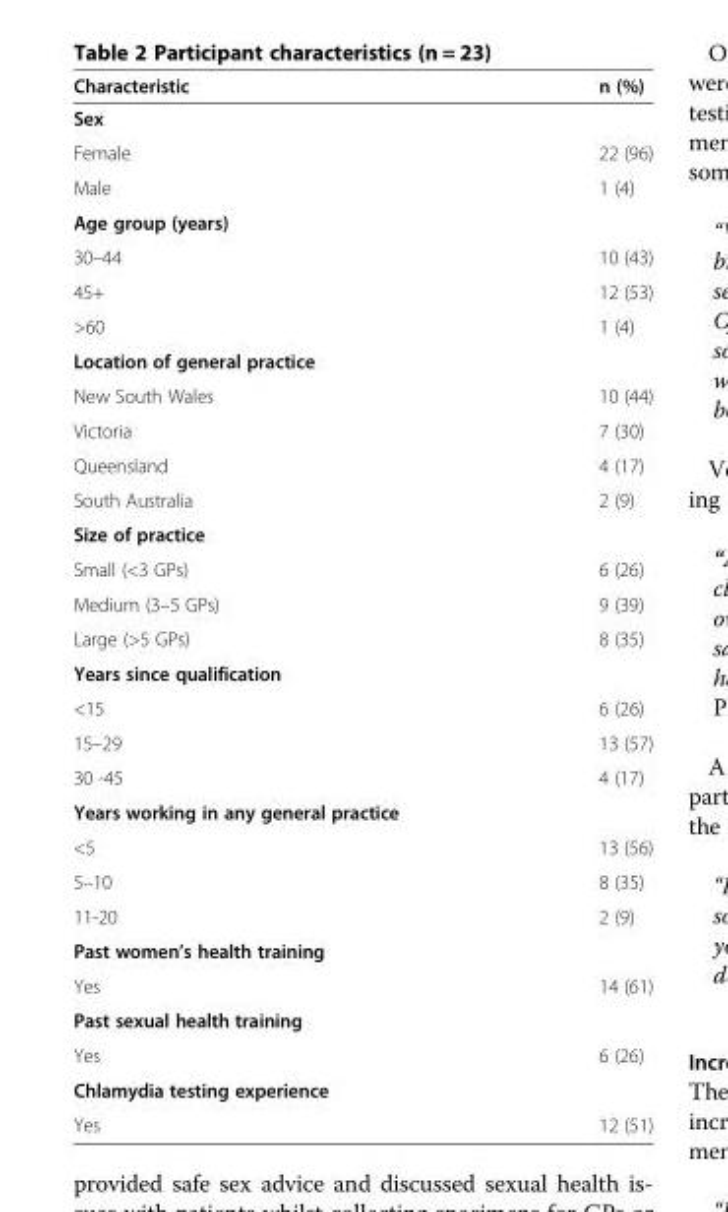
<table><thead><tr><td>Characteristic</td><td>n (%)</td></tr></thead><tbody><tr><td colspan="2">Sex</td></tr><tr><td>Female</td><td>22 (96)</td></tr><tr><td>Male</td><td>1 (4)</td></tr><tr><td colspan="2">Age group (years)</td></tr><tr><td>30–44</td><td>10 (43)</td></tr><tr><td>45+</td><td>12 (53)</td></tr><tr><td>&gt;60</td><td>1 (4)</td></tr><tr><td colspan="2">Location of general practice</td></tr><tr><td>New South Wales</td><td>10 (44)</td></tr><tr><td>Victoria</td><td>7 (30)</td></tr><tr><td>Queensland</td><td>4 (17)</td></tr><tr><td>South Australia</td><td>2 (9)</td></tr><tr><td colspan="2">Size of practice</td></tr><tr><td>Small (&lt;3 GPs)</td><td>6 (26)</td></tr><tr><td>Medium (3–5 GPs)</td><td>9 (39)</td></tr><tr><td>Large (&gt;5 GPs)</td><td>8 (35)</td></tr><tr><td colspan="2">Years since qualification</td></tr><tr><td>&lt;15</td><td>6 (26)</td></tr><tr><td>15–29</td><td>13 (57)</td></tr><tr><td>30 -45</td><td>4 (17)</td></tr><tr><td colspan="2">Years working in any general practice</td></tr><tr><td>&lt;5</td><td>13 (56)</td></tr><tr><td>5–10</td><td>8 (35)</td></tr><tr><td>11-20</td><td>2 (9)</td></tr><tr><td colspan="2">Past women’s health training</td></tr><tr><td>Yes</td><td>14 (61)</td></tr><tr><td colspan="2">Past sexual health training</td></tr><tr><td>Yes</td><td>6 (26)</td></tr><tr><td colspan="2">Chlamydia testing experience</td></tr><tr><td>Yes</td><td>12 (51)</td></tr></tbody></table>